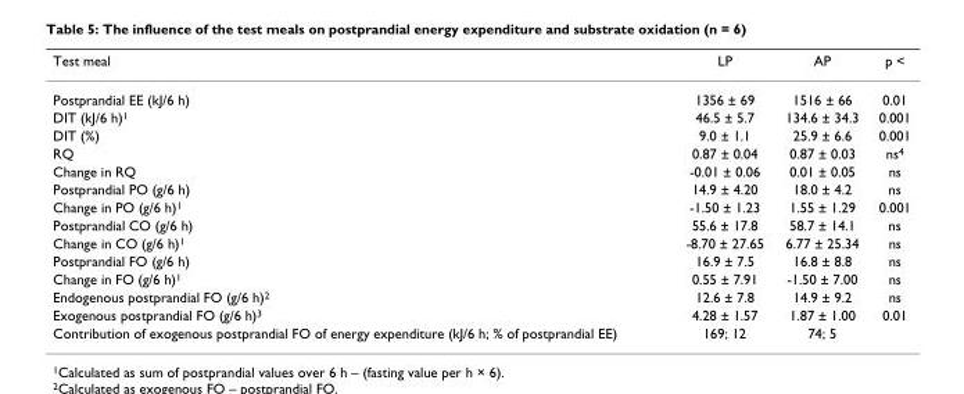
<table><thead><tr><td>Test meal</td><td>LP</td><td>AP</td><td>p &lt;</td></tr></thead><tbody><tr><td>Postprandial EE (kJ/6 h)</td><td>1356 ± 69</td><td>1516 ± 66</td><td>0.01</td></tr><tr><td>DIT (kJ/6 h)<sup>1</sup></td><td>46.5 ± 5.7</td><td>134.6 ± 34.3</td><td>0.001</td></tr><tr><td>DIT (%)</td><td>9.0 ± 1.1</td><td>25.9 ± 6.6</td><td>0.001</td></tr><tr><td>RQ</td><td>0.87 ± 0.04</td><td>0.87 ± 0.03</td><td>ns<sup>4</sup></td></tr><tr><td>Change in RQ</td><td>-0.01 ± 0.06</td><td>0.01 ± 0.05</td><td>ns</td></tr><tr><td>Postprandial PO (g/6 h)</td><td>14.9 ± 4.20</td><td>18.0 ± 4.2</td><td>ns</td></tr><tr><td>Change in PO (g/6 h)<sup>1</sup></td><td>-1.50 ± 1.23</td><td>1.55 ± 1.29</td><td>0.001</td></tr><tr><td>Postprandial CO (g/6 h)</td><td>55.6 ± 17.8</td><td>58.7 ± 14.1</td><td>ns</td></tr><tr><td>Change in CO (g/6 h)<sup>1</sup></td><td>-8.70 ± 27.65</td><td>6.77 ± 25.34</td><td>ns</td></tr><tr><td>Postprandial FO (g/6 h)</td><td>16.9 ± 7.5</td><td>16.8 ± 8.8</td><td>ns</td></tr><tr><td>Change in FO (g/6 h)<sup>1</sup></td><td>0.55 ± 7.91</td><td>-1.50 ± 7.00</td><td>ns</td></tr><tr><td>Endogenous postprandial FO (g/6 h)<sup>2</sup></td><td>12.6 ± 7.8</td><td>14.9 ± 9.2</td><td>ns</td></tr><tr><td>Exogenous postprandial FO (g/6 h)<sup>3</sup></td><td>4.28 ± 1.57</td><td>1.87 ± 1.00</td><td>0.01</td></tr><tr><td>Contribution of exogenous postprandial FO of energy expenditure (kJ/6 h; % of postprandial EE)</td><td>169; 12</td><td>74; 5</td><td></td></tr></tbody></table>